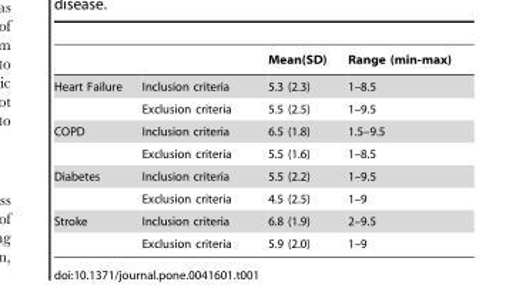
<table><thead><tr><td></td><td></td><td>Mean(SD)</td><td>Range (min-max)</td></tr></thead><tbody><tr><td rowspan="2">Heart Failure</td><td>Inclusion criteria</td><td>5.3 (2.3)</td><td>1–8.5</td></tr><tr><td>Exclusion criteria</td><td>5.5 (2.5)</td><td>1–9.5</td></tr><tr><td rowspan="2">COPD</td><td>Inclusion criteria</td><td>6.5 (1.8)</td><td>1.5–9.5</td></tr><tr><td>Exclusion criteria</td><td>5.5 (1.6)</td><td>1–8.5</td></tr><tr><td rowspan="2">Diabetes</td><td>Inclusion criteria</td><td>5.5 (2.2)</td><td>1–9.5</td></tr><tr><td>Exclusion criteria</td><td>4.5 (2.5)</td><td>1–9</td></tr><tr><td rowspan="2">Stroke</td><td>Inclusion criteria</td><td>6.8 (1.9)</td><td>2–9.5</td></tr><tr><td>Exclusion criteria</td><td>5.9 (2.0)</td><td>1–9</td></tr></tbody></table>